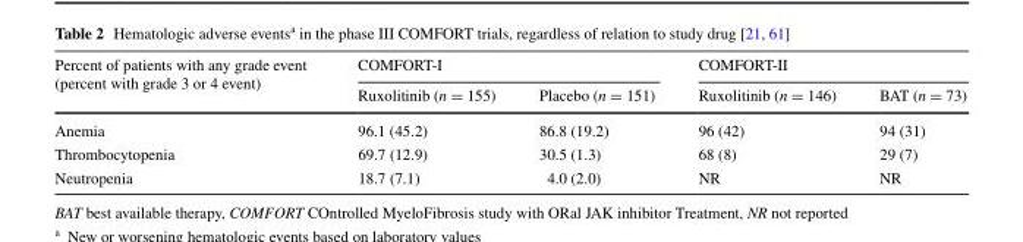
<table><thead><tr><td rowspan="2">Percent of patients with any grade event (percent with grade 3 or 4 event)</td><td colspan="2">COMFORT-I</td><td colspan="2">COMFORT-II</td></tr><tr><td>Ruxolitinib (n = 155)</td><td>Placebo (n = 151)</td><td>Ruxolitinib (n = 146)</td><td>BAT (n = 73)</td></tr></thead><tbody><tr><td>Anemia</td><td>96.1 (45.2)</td><td>86.8 (19.2)</td><td>96 (42)</td><td>94 (31)</td></tr><tr><td>Thrombocytopenia</td><td>69.7 (12.9)</td><td>30.5 (1.3)</td><td>68 (8)</td><td>29 (7)</td></tr><tr><td>Neutropenia</td><td>18.7 (7.1)</td><td>4.0 (2.0)</td><td>NR</td><td>NR</td></tr></tbody></table>